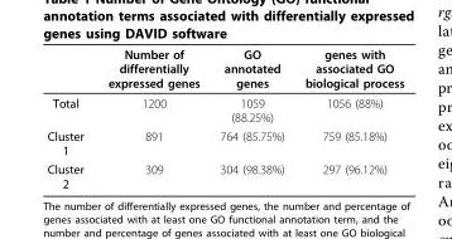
<table><thead><tr><td></td><td>Number of differentially expressed genes</td><td>GO annotated genes</td><td>genes with associated GO biological process</td></tr></thead><tbody><tr><td>Total</td><td>1200</td><td>1059 (88.25%)</td><td>1056 (88%)</td></tr><tr><td>Cluster 1</td><td>891</td><td>764 (85.75%)</td><td>759 (85.18%)</td></tr><tr><td>Cluster 2</td><td>309</td><td>304 (98.38%)</td><td>297 (96.12%)</td></tr></tbody></table>